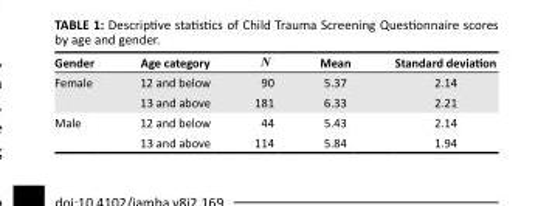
<table><thead><tr><td>Gender</td><td>Age category</td><td>N</td><td>Mean</td><td>Standard deviation</td></tr></thead><tbody><tr><td rowspan="2">Female</td><td>12 and below</td><td>90</td><td>5.37</td><td>2.14</td></tr><tr><td>13 and above</td><td>181</td><td>6.33</td><td>2.21</td></tr><tr><td rowspan="2">Male</td><td>12 and below</td><td>44</td><td>5.43</td><td>2.14</td></tr><tr><td>13 and above</td><td>114</td><td>5.84</td><td>1.94</td></tr></tbody></table>